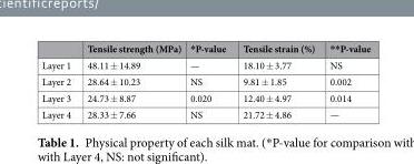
<table><thead><tr><td></td><td>Tensile strength (MPa)</td><td>*P-value</td><td>Tensile strain (%)</td><td>**P-value</td></tr></thead><tbody><tr><td>Layer 1</td><td>48.11 ± 14.89</td><td>—</td><td>18.10 ± 3.77</td><td>NS</td></tr><tr><td>Layer 2</td><td>28.64 ± 10.23</td><td>NS</td><td>9.81 ± 1.85</td><td>0.002</td></tr><tr><td>Layer 3</td><td>24.73 ± 8.87</td><td>0.020</td><td>12.40 ± 4.97</td><td>0.014</td></tr><tr><td>Layer 4</td><td>28.33 ± 7.66</td><td>NS</td><td>21.72 ± 4.86</td><td>—</td></tr></tbody></table>